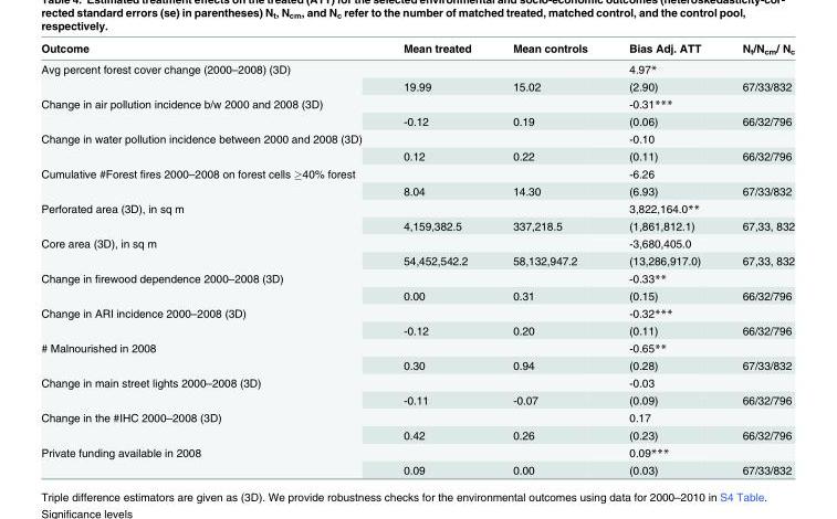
<table><thead><tr><td>Outcome</td><td>Mean treated</td><td>Mean controls</td><td>Bias Adj. ATT</td><td>N<sub>t</sub>/N<sub>cm</sub>/ N<sub>c</sub></td></tr></thead><tbody><tr><td rowspan="2">Avg percent forest cover change (2000–2008) (3D)</td><td></td><td></td><td>4.97*</td><td></td></tr><tr><td>19.99</td><td>15.02</td><td>(2.90)</td><td>67/33/832</td></tr><tr><td rowspan="2">Change in air pollution incidence b/w 2000 and 2008 (3D)</td><td></td><td></td><td>-0.31***</td><td></td></tr><tr><td>-0.12</td><td>0.19</td><td>(0.06)</td><td>66/32/796</td></tr><tr><td rowspan="2">Change in water pollution incidence between 2000 and 2008 (3D)</td><td></td><td></td><td>-0.10</td><td></td></tr><tr><td>0.12</td><td>0.22</td><td>(0.11)</td><td>66/32/796</td></tr><tr><td rowspan="2">Cumulative #Forest fires 2000–2008 on forest cells ≥40% forest</td><td></td><td></td><td>-6.26</td><td></td></tr><tr><td>8.04</td><td>14.30</td><td>(6.93)</td><td>67/33/832</td></tr><tr><td rowspan="2">Perforated area (3D), in sq m</td><td></td><td></td><td>3,822,164.0**</td><td></td></tr><tr><td>4,159,382.5</td><td>337,218.5</td><td>(1,861,812.1)</td><td>67,33, 832</td></tr><tr><td rowspan="2">Core area (3D), in sq m</td><td></td><td></td><td>-3,680,405.0</td><td></td></tr><tr><td>54,452,542.2</td><td>58,132,947.2</td><td>(13,286,917.0)</td><td>67,33, 832</td></tr><tr><td rowspan="2">Change in firewood dependence 2000–2008 (3D)</td><td></td><td></td><td>-0.33**</td><td></td></tr><tr><td>0.00</td><td>0.31</td><td>(0.15)</td><td>66/32/796</td></tr><tr><td rowspan="2">Change in ARI incidence 2000–2008 (3D)</td><td></td><td></td><td>-0.32***</td><td></td></tr><tr><td>-0.12</td><td>0.20</td><td>(0.11)</td><td>66/32/796</td></tr><tr><td rowspan="2"># Malnourished in 2008</td><td></td><td></td><td>-0.65**</td><td></td></tr><tr><td>0.30</td><td>0.94</td><td>(0.28)</td><td>67/33/832</td></tr><tr><td rowspan="2">Change in main street lights 2000–2008 (3D)</td><td></td><td></td><td>-0.03</td><td></td></tr><tr><td>-0.11</td><td>-0.07</td><td>(0.09)</td><td>66/32/796</td></tr><tr><td rowspan="2">Change in the #IHC 2000–2008 (3D)</td><td></td><td></td><td>0.17</td><td></td></tr><tr><td>0.42</td><td>0.26</td><td>(0.23)</td><td>66/32/796</td></tr><tr><td rowspan="2">Private funding available in 2008</td><td></td><td></td><td>0.09***</td><td></td></tr><tr><td>0.09</td><td>0.00</td><td>(0.03)</td><td>67/33/832</td></tr></tbody></table>